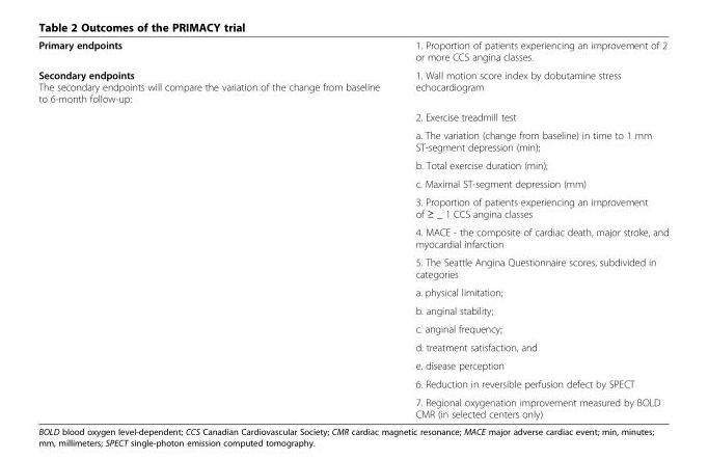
<table><tbody><tr><td>Primary endpoints</td><td>1. Proportion of patients experiencing an improvement of 2 or more CCS angina classes.</td></tr><tr><td rowspan="15">Secondary endpoints The secondary endpoints will compare the variation of the change from baseline to 6-month follow-up:</td><td>1. Wall motion score index by dobutamine stress echocardiogram</td></tr><tr><td>2. Exercise treadmill test</td></tr><tr><td>a. The variation (change from baseline) in time to 1 mm ST-segment depression (min);</td></tr><tr><td>b. Total exercise duration (min);</td></tr><tr><td>c. Maximal ST-segment depression (mm)</td></tr><tr><td>3. Proportion of patients experiencing an improvement of ≥ _ 1 CCS angina classes</td></tr><tr><td>4. MACE - the composite of cardiac death, major stroke, and myocardial infarction</td></tr><tr><td>5. The Seattle Angina Questionnaire scores, subdivided in categories</td></tr><tr><td>a. physical limitation;</td></tr><tr><td>b. anginal stability;</td></tr><tr><td>c. anginal frequency;</td></tr><tr><td>d. treatment satisfaction, and</td></tr><tr><td>e. disease perception</td></tr><tr><td>6. Reduction in reversible perfusion defect by SPECT</td></tr><tr><td>7. Regional oxygenation improvement measured by BOLD CMR (in selected centers only)</td></tr></tbody></table>